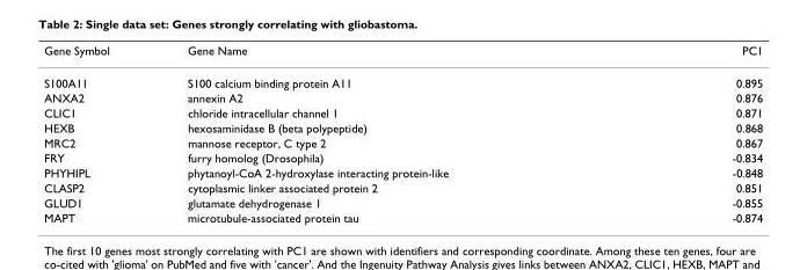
<table><thead><tr><td>Gene Symbol</td><td>Gene Name</td><td>PC1</td></tr></thead><tbody><tr><td>S100A11</td><td>S100 calcium binding protein A11</td><td>0.895</td></tr><tr><td>ANXA2</td><td>annexin A2</td><td>0.876</td></tr><tr><td>CLIC1</td><td>chloride intracellular channel 1</td><td>0.871</td></tr><tr><td>HEXB</td><td>hexosaminidase B (beta polypeptide)</td><td>0.868</td></tr><tr><td>MRC2</td><td>mannose receptor, C type 2</td><td>0.867</td></tr><tr><td>FRY</td><td>furry homolog (Drosophila)</td><td>-0.834</td></tr><tr><td>PHYHIPL</td><td>phytanoyl-CoA 2-hydroxylase interacting protein-like</td><td>-0.848</td></tr><tr><td>CLASP2</td><td>cytoplasmic linker associated protein 2</td><td>0.851</td></tr><tr><td>GLUD1</td><td>glutamate dehydrogenase 1</td><td>-0.855</td></tr><tr><td>MAPT</td><td>microtubule-associated protein tau</td><td>-0.874</td></tr></tbody></table>